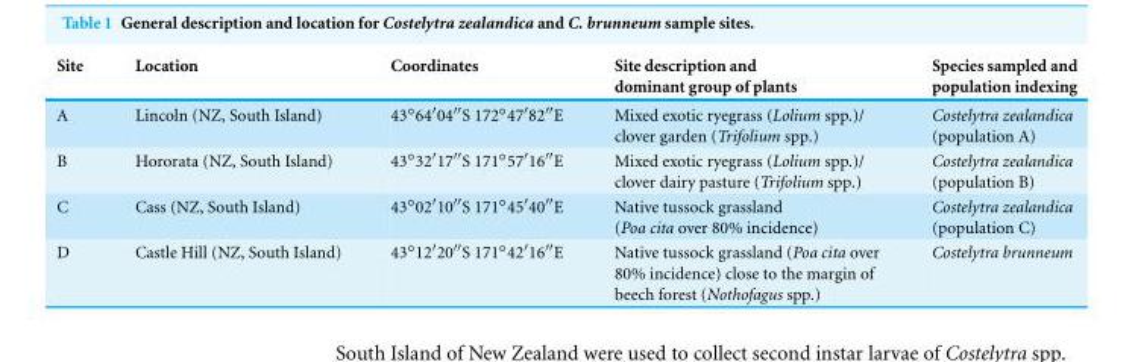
<table><thead><tr><td>Site</td><td>Location</td><td>Coordinates</td><td>Site description and dominant group of plants</td><td>Species sampled and population indexing</td></tr></thead><tbody><tr><td>A</td><td>Lincoln (NZ, South Island)</td><td>43◦64′04′′S 172◦47′82′′E</td><td>Mixed exotic ryegrass (Lolium spp.)/ clover garden (Trifolium spp.)</td><td>Costelytra zealandica (population A)</td></tr><tr><td>B</td><td>Hororata (NZ, South Island)</td><td>43◦32′17′′S 171◦57′16′′E</td><td>Mixed exotic ryegrass (Lolium spp.)/ clover dairy pasture (Trifolium spp.)</td><td>Costelytra zealandica (population B)</td></tr><tr><td>C</td><td>Cass (NZ, South Island)</td><td>43◦02′10′′S 171◦45′40′′E</td><td>Native tussock grassland (Poa cita over 80% incidence)</td><td>Costelytra zealandica (population C)</td></tr><tr><td>D</td><td>Castle Hill (NZ, South Island)</td><td>43◦12′20′′S 171◦42′16′′E</td><td>Native tussock grassland (Poa cita over 80% incidence) close to the margin of beech forest (Nothofagus spp.)</td><td>Costelytra brunneum</td></tr></tbody></table>